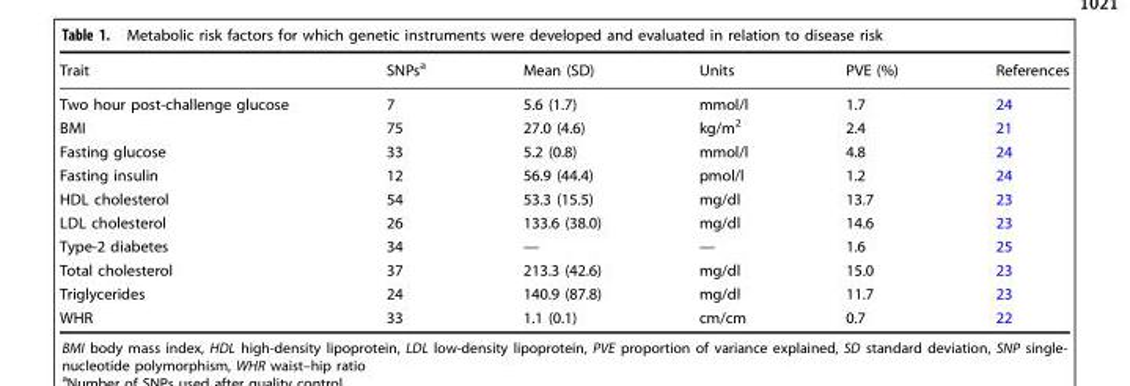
<table><thead><tr><td>Trait</td><td>SNPs<sup>a</sup></td><td>Mean (SD)</td><td>Units</td><td>PVE (%)</td><td>References</td></tr></thead><tbody><tr><td>Two hour post-challenge glucose</td><td>7</td><td>5.6 (1.7)</td><td>mmol/l</td><td>1.7</td><td>24</td></tr><tr><td>BMI</td><td>75</td><td>27.0 (4.6)</td><td>kg/m<sup>2</sup></td><td>2.4</td><td>21</td></tr><tr><td>Fasting glucose</td><td>33</td><td>5.2 (0.8)</td><td>mmol/l</td><td>4.8</td><td>24</td></tr><tr><td>Fasting insulin</td><td>12</td><td>56.9 (44.4)</td><td>pmol/l</td><td>1.2</td><td>24</td></tr><tr><td>HDL cholesterol</td><td>54</td><td>53.3 (15.5)</td><td>mg/dl</td><td>13.7</td><td>23</td></tr><tr><td>LDL cholesterol</td><td>26</td><td>133.6 (38.0)</td><td>mg/dl</td><td>14.6</td><td>23</td></tr><tr><td>Type-2 diabetes</td><td>34</td><td>—</td><td>—</td><td>1.6</td><td>25</td></tr><tr><td>Total cholesterol</td><td>37</td><td>213.3 (42.6)</td><td>mg/dl</td><td>15.0</td><td>23</td></tr><tr><td>Triglycerides</td><td>24</td><td>140.9 (87.8)</td><td>mg/dl</td><td>11.7</td><td>23</td></tr><tr><td>WHR</td><td>33</td><td>1.1 (0.1)</td><td>cm/cm</td><td>0.7</td><td>22</td></tr></tbody></table>